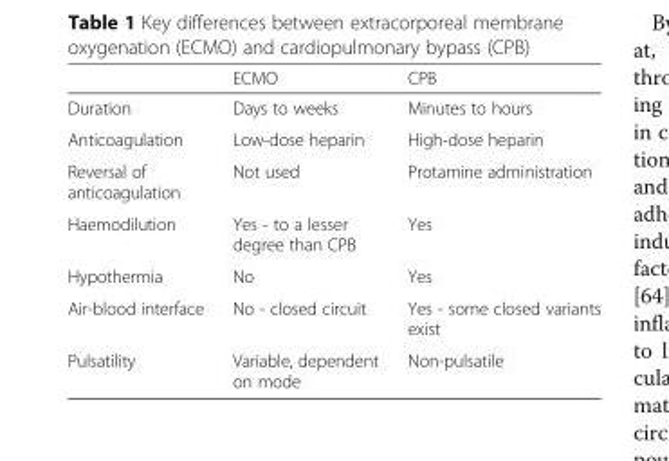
<table><thead><tr><td></td><td>ECMO</td><td>CPB</td></tr></thead><tbody><tr><td>Duration</td><td>Days to weeks</td><td>Minutes to hours</td></tr><tr><td>Anticoagulation</td><td>Low-dose heparin</td><td>High-dose heparin</td></tr><tr><td>Reversal of anticoagulation</td><td>Not used</td><td>Protamine administration</td></tr><tr><td>Haemodilution</td><td>Yes - to a lesser degree than CPB</td><td>Yes</td></tr><tr><td>Hypothermia</td><td>No</td><td>Yes</td></tr><tr><td>Air-blood interface</td><td>No - closed circuit</td><td>Yes - some closed variants exist</td></tr><tr><td>Pulsatility</td><td>Variable, dependent on mode</td><td>Non-pulsatile</td></tr></tbody></table>